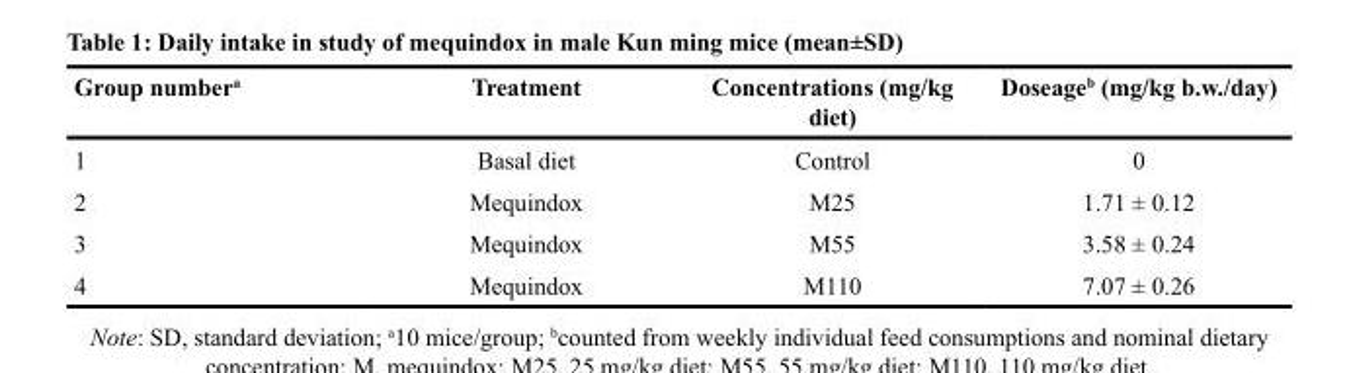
<table><thead><tr><td>Group number<sup>a</sup></td><td>Treatment</td><td>Concentrations (mg/kg diet)</td><td>Doseage<sup>b</sup> (mg/kg b.w./day)</td></tr></thead><tbody><tr><td>1</td><td>Basal diet</td><td>Control</td><td>0</td></tr><tr><td>2</td><td>Mequindox</td><td>M25</td><td>1.71 ± 0.12</td></tr><tr><td>3</td><td>Mequindox</td><td>M55</td><td>3.58 ± 0.24</td></tr><tr><td>4</td><td>Mequindox</td><td>M110</td><td>7.07 ± 0.26</td></tr></tbody></table>